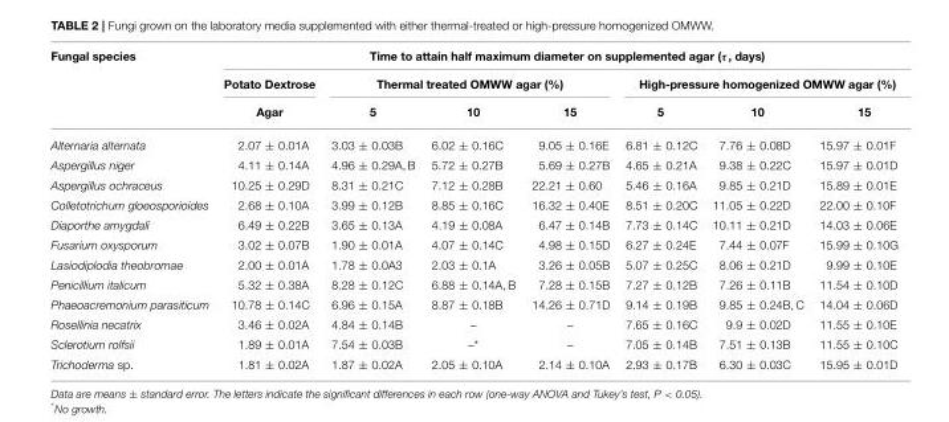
<table><thead><tr><td rowspan="3">Fungal species</td><td colspan="7">Time to attain half maximum diameter on supplemented agar (τ, days)</td></tr><tr><td rowspan="2">Potato Dextrose Agar</td><td colspan="3">Thermal treated OMWW agar (%)</td><td colspan="3">High-pressure homogenized OMWW agar (%)</td></tr><tr><td>5</td><td>10</td><td>15</td><td>5</td><td>10</td><td>15</td></tr></thead><tbody><tr><td>Alternaria alternata</td><td>2.07 ± 0.01A</td><td>3.03 ± 0.03B</td><td>6.02 ± 0.16C</td><td>9.05 ± 0.16E</td><td>6.81 ± 0.12C</td><td>7.76 ± 0.08D</td><td>15.97 ± 0.01F</td></tr><tr><td>Aspergillus niger</td><td>4.11 ± 0.14A</td><td>4.96 ± 0.29A, B</td><td>5.72 ± 0.27B</td><td>5.69 ± 0.27B</td><td>4.65 ± 0.21A</td><td>9.38 ± 0.22C</td><td>15.97 ± 0.01D</td></tr><tr><td>Aspergillus ochraceus</td><td>10.25 ± 0.29D</td><td>8.31 ± 0.21C</td><td>7.12 ± 0.28B</td><td>22.21 ± 0.60</td><td>5.46 ± 0.16A</td><td>9.85 ± 0.21D</td><td>15.89 ± 0.01E</td></tr><tr><td>Colletotrichum gloeosporioides</td><td>2.68 ± 0.10A</td><td>3.99 ± 0.12B</td><td>8.85 ± 0.16C</td><td>16.32 ± 0.40E</td><td>8.51 ± 0.20C</td><td>11.05 ± 0.22D</td><td>22.00 ± 0.10F</td></tr><tr><td>Diaporthe amygdali</td><td>6.49 ± 0.22B</td><td>3.65 ± 0.13A</td><td>4.19 ± 0.08A</td><td>6.47 ± 0.14B</td><td>7.73 ± 0.14C</td><td>10.11 ± 0.21D</td><td>14.03 ± 0.06E</td></tr><tr><td>Fusarium oxysporum</td><td>3.02 ± 0.07B</td><td>1.90 ± 0.01A</td><td>4.07 ± 0.14C</td><td>4.98 ± 0.15D</td><td>6.27 ± 0.24E</td><td>7.44 ± 0.07F</td><td>15.99 ± 0.10G</td></tr><tr><td>Lasiodiplodia theobromae</td><td>2.00 ± 0.01A</td><td>1.78 ± 0.0A3</td><td>2.03 ± 0.1A</td><td>3.26 ± 0.05B</td><td>5.07 ± 0.25C</td><td>8.06 ± 0.21D</td><td>9.99 ± 0.10E</td></tr><tr><td>Penicillium italicum</td><td>5.32 ± 0.38A</td><td>8.28 ± 0.12C</td><td>6.88 ± 0.14A, B</td><td>7.28 ± 0.15B</td><td>7.27 ± 0.12B</td><td>7.26 ± 0.11B</td><td>11.54 ± 0.10D</td></tr><tr><td>Phaeoacremonium parasiticum</td><td>10.78 ± 0.14C</td><td>6.96 ± 0.15A</td><td>8.87 ± 0.18B</td><td>14.26 ± 0.71D</td><td>9.14 ± 0.19B</td><td>9.85 ± 0.24B, C</td><td>14.04 ± 0.06D</td></tr><tr><td>Rosellinia necatrix</td><td>3.46 ± 0.02A</td><td>4.84 ± 0.14B</td><td>–</td><td>–</td><td>7.65 ± 0.16C</td><td>9.9 ± 0.02D</td><td>11.55 ± 0.10E</td></tr><tr><td>Sclerotium rolfsii</td><td>1.89 ± 0.01A</td><td>7.54 ± 0.03B</td><td>–*</td><td>–</td><td>7.05 ± 0.14B</td><td>7.51 ± 0.13B</td><td>11.55 ± 0.10C</td></tr><tr><td>Trichoderma sp.</td><td>1.81 ± 0.02A</td><td>1.87 ± 0.02A</td><td>2.05 ± 0.10A</td><td>2.14 ± 0.10A</td><td>2.93 ± 0.17B</td><td>6.30 ± 0.03C</td><td>15.95 ± 0.01D</td></tr></tbody></table>